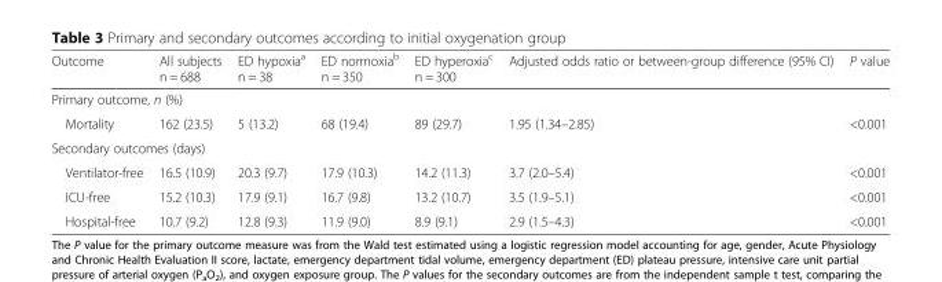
<table><thead><tr><td>Outcome</td><td>All subjects n = 688</td><td>ED hypoxia<sup>a</sup> n = 38</td><td>ED normoxia<sup>b</sup> n = 350</td><td>ED hyperoxia<sup>c</sup> n = 300</td><td>Adjusted odds ratio or between-group difference (95% CI)</td><td>P value</td></tr></thead><tbody><tr><td colspan="7">Primary outcome, n (%)</td></tr><tr><td>Mortality</td><td>162 (23.5)</td><td>5 (13.2)</td><td>68 (19.4)</td><td>89 (29.7)</td><td>1.95 (1.34–2.85)</td><td>&lt;0.001</td></tr><tr><td colspan="7">Secondary outcomes (days)</td></tr><tr><td>Ventilator-free</td><td>16.5 (10.9)</td><td>20.3 (9.7)</td><td>17.9 (10.3)</td><td>14.2 (11.3)</td><td>3.7 (2.0–5.4)</td><td>&lt;0.001</td></tr><tr><td>ICU-free</td><td>15.2 (10.3)</td><td>17.9 (9.1)</td><td>16.7 (9.8)</td><td>13.2 (10.7)</td><td>3.5 (1.9–5.1)</td><td>&lt;0.001</td></tr><tr><td>Hospital-free</td><td>10.7 (9.2)</td><td>12.8 (9.3)</td><td>11.9 (9.0)</td><td>8.9 (9.1)</td><td>2.9 (1.5–4.3)</td><td>&lt;0.001</td></tr></tbody></table>